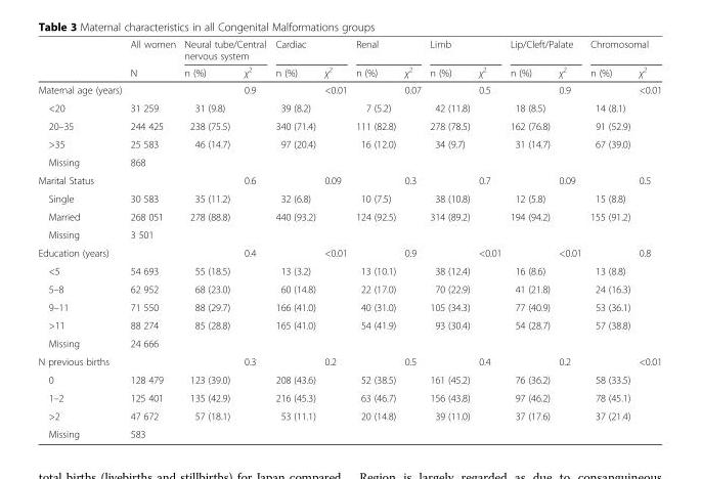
<table><thead><tr><td rowspan="2"></td><td rowspan="2">All women N</td><td colspan="2">Neural tube/Central nervous system</td><td colspan="2">Cardiac</td><td colspan="2">Renal</td><td colspan="2">Limb</td><td colspan="2">Lip/Cleft/Palate</td><td colspan="2">Chromosomal</td></tr><tr><td>n (%)</td><td>χ<sup>2</sup></td><td>n (%)</td><td>χ<sup>2</sup></td><td>n (%)</td><td>χ<sup>2</sup></td><td>n (%)</td><td>χ<sup>2</sup></td><td>n (%)</td><td>χ<sup>2</sup></td><td>n (%)</td><td>χ<sup>2</sup></td></tr></thead><tbody><tr><td>Maternal age (years)</td><td></td><td></td><td>0.9</td><td></td><td>&lt;0.01</td><td></td><td>0.07</td><td></td><td>0.5</td><td></td><td>0.9</td><td></td><td>&lt;0.01</td></tr><tr><td>&lt;20</td><td>31 259</td><td>31 (9.8)</td><td></td><td>39 (8.2)</td><td></td><td>7 (5.2)</td><td></td><td>42 (11.8)</td><td></td><td>18 (8.5)</td><td></td><td>14 (8.1)</td><td></td></tr><tr><td>20–35</td><td>244 425</td><td>238 (75.5)</td><td></td><td>340 (71.4)</td><td></td><td>111 (82.8)</td><td></td><td>278 (78.5)</td><td></td><td>162 (76.8)</td><td></td><td>91 (52.9)</td><td></td></tr><tr><td>&gt;35</td><td>25 583</td><td>46 (14.7)</td><td></td><td>97 (20.4)</td><td></td><td>16 (12.0)</td><td></td><td>34 (9.7)</td><td></td><td>31 (14.7)</td><td></td><td>67 (39.0)</td><td></td></tr><tr><td>Missing</td><td>868</td><td></td><td></td><td></td><td></td><td></td><td></td><td></td><td></td><td></td><td></td><td></td><td></td></tr><tr><td>Marital Status</td><td></td><td></td><td>0.6</td><td></td><td>0.09</td><td></td><td>0.3</td><td></td><td>0.7</td><td></td><td>0.09</td><td></td><td>0.5</td></tr><tr><td>Single</td><td>30 583</td><td>35 (11.2)</td><td></td><td>32 (6.8)</td><td></td><td>10 (7.5)</td><td></td><td>38 (10.8)</td><td></td><td>12 (5.8)</td><td></td><td>15 (8.8)</td><td></td></tr><tr><td>Married</td><td>268 051</td><td>278 (88.8)</td><td></td><td>440 (93.2)</td><td></td><td>124 (92.5)</td><td></td><td>314 (89.2)</td><td></td><td>194 (94.2)</td><td></td><td>155 (91.2)</td><td></td></tr><tr><td>Missing</td><td>3 501</td><td></td><td></td><td></td><td></td><td></td><td></td><td></td><td></td><td></td><td></td><td></td><td></td></tr><tr><td>Education (years)</td><td></td><td></td><td>0.4</td><td></td><td>&lt;0.01</td><td></td><td>0.9</td><td></td><td>&lt;0.01</td><td></td><td>&lt;0.01</td><td></td><td>0.8</td></tr><tr><td>&lt;5</td><td>54 693</td><td>55 (18.5)</td><td></td><td>13 (3.2)</td><td></td><td>13 (10.1)</td><td></td><td>38 (12.4)</td><td></td><td>16 (8.6)</td><td></td><td>13 (8.8)</td><td></td></tr><tr><td>5–8</td><td>62 952</td><td>68 (23.0)</td><td></td><td>60 (14.8)</td><td></td><td>22 (17.0)</td><td></td><td>70 (22.9)</td><td></td><td>41 (21.8)</td><td></td><td>24 (16.3)</td><td></td></tr><tr><td>9–11</td><td>71 550</td><td>88 (29.7)</td><td></td><td>166 (41.0)</td><td></td><td>40 (31.0)</td><td></td><td>105 (34.3)</td><td></td><td>77 (40.9)</td><td></td><td>53 (36.1)</td><td></td></tr><tr><td>&gt;11</td><td>88 274</td><td>85 (28.8)</td><td></td><td>165 (41.0)</td><td></td><td>54 (41.9)</td><td></td><td>93 (30.4)</td><td></td><td>54 (28.7)</td><td></td><td>57 (38.8)</td><td></td></tr><tr><td>Missing</td><td>24 666</td><td></td><td></td><td></td><td></td><td></td><td></td><td></td><td></td><td></td><td></td><td></td><td></td></tr><tr><td>N previous births</td><td></td><td></td><td>0.3</td><td></td><td>0.2</td><td></td><td>0.5</td><td></td><td>0.4</td><td></td><td>0.2</td><td></td><td>&lt;0.01</td></tr><tr><td>0</td><td>128 479</td><td>123 (39.0)</td><td></td><td>208 (43.6)</td><td></td><td>52 (38.5)</td><td></td><td>161 (45.2)</td><td></td><td>76 (36.2)</td><td></td><td>58 (33.5)</td><td></td></tr><tr><td>1–2</td><td>125 401</td><td>135 (42.9)</td><td></td><td>216 (45.3)</td><td></td><td>63 (46.7)</td><td></td><td>156 (43.8)</td><td></td><td>97 (46.2)</td><td></td><td>78 (45.1)</td><td></td></tr><tr><td>&gt;2</td><td>47 672</td><td>57 (18.1)</td><td></td><td>53 (11.1)</td><td></td><td>20 (14.8)</td><td></td><td>39 (11.0)</td><td></td><td>37 (17.6)</td><td></td><td>37 (21.4)</td><td></td></tr><tr><td>Missing</td><td>583</td><td></td><td></td><td></td><td></td><td></td><td></td><td></td><td></td><td></td><td></td><td></td><td></td></tr></tbody></table>